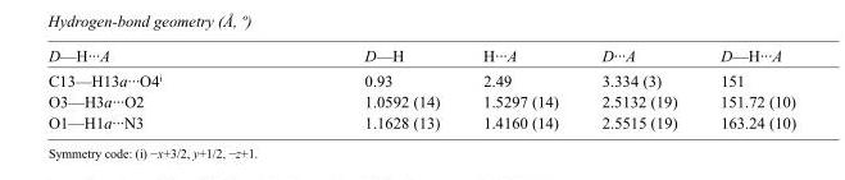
<table><tbody><tr><td>D—H···A</td><td>D—H</td><td>H···A</td><td>D···A</td><td>D—H···A</td></tr><tr><td>C13—H13a···O4<sup>i</sup></td><td>0.93</td><td>2.49</td><td>3.334 (3)</td><td>151</td></tr><tr><td>O3—H3a···O2</td><td>1.0592 (14)</td><td>1.5297 (14)</td><td>2.5132 (19)</td><td>151.72 (10)</td></tr><tr><td>O1—H1a···N3</td><td>1.1628 (13)</td><td>1.4160 (14)</td><td>2.5515 (19)</td><td>163.24 (10)</td></tr></tbody></table>